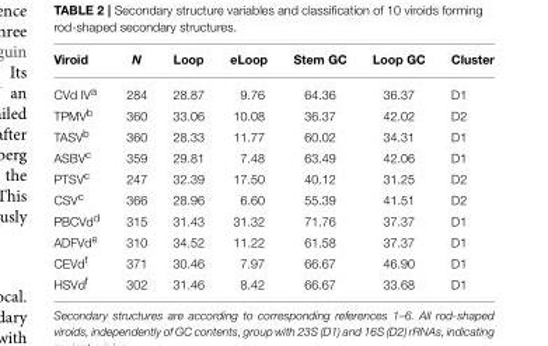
<table><thead><tr><td>Viroid</td><td>N</td><td>Loop</td><td>eLoop</td><td>Stem GC</td><td>Loop GC</td><td>Cluster</td></tr></thead><tbody><tr><td>CVd IV<sup>a</sup></td><td>284</td><td>28.87</td><td>9.76</td><td>64.36</td><td>36.37</td><td>D1</td></tr><tr><td>TPMV<sup>b</sup></td><td>360</td><td>33.06</td><td>10.08</td><td>36.37</td><td>42.02</td><td>D2</td></tr><tr><td>TASV<sup>b</sup></td><td>360</td><td>28.33</td><td>11.77</td><td>60.02</td><td>34.31</td><td>D1</td></tr><tr><td>ASBV<sup>c</sup></td><td>359</td><td>29.81</td><td>7.48</td><td>63.49</td><td>42.06</td><td>D1</td></tr><tr><td>PTSV<sup>c</sup></td><td>247</td><td>32.39</td><td>17.50</td><td>40.12</td><td>31.25</td><td>D2</td></tr><tr><td>CSV<sup>c</sup></td><td>366</td><td>28.96</td><td>6.60</td><td>55.39</td><td>41.51</td><td>D2</td></tr><tr><td>PBCVd<sup>d</sup></td><td>315</td><td>31.43</td><td>31.32</td><td>71.76</td><td>37.37</td><td>D1</td></tr><tr><td>ADFVd<sup>e</sup></td><td>310</td><td>34.52</td><td>11.22</td><td>61.58</td><td>37.37</td><td>D1</td></tr><tr><td>CEVd<sup>f</sup></td><td>371</td><td>30.46</td><td>7.97</td><td>66.67</td><td>46.90</td><td>D1</td></tr><tr><td>HSVd<sup>f</sup></td><td>302</td><td>31.46</td><td>8.42</td><td>66.67</td><td>33.68</td><td>D1</td></tr></tbody></table>